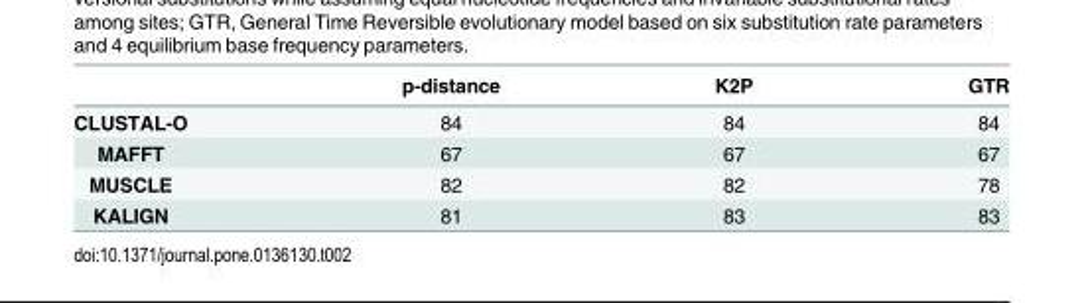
<table><thead><tr><td></td><td>p-distance</td><td>K2P</td><td>GTR</td></tr></thead><tbody><tr><td>CLUSTAL-O</td><td>84</td><td>84</td><td>84</td></tr><tr><td>MAFFT</td><td>67</td><td>67</td><td>67</td></tr><tr><td>MUSCLE</td><td>82</td><td>82</td><td>78</td></tr><tr><td>KALIGN</td><td>81</td><td>83</td><td>83</td></tr></tbody></table>